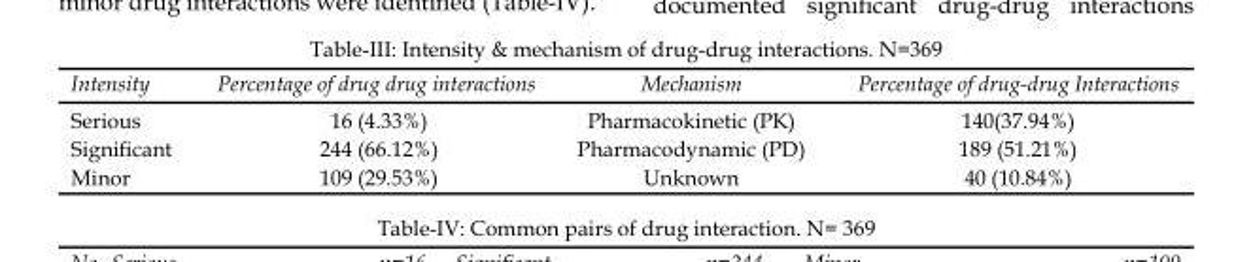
<table><thead><tr><td>Intensity</td><td>Percentage of drug drug interactions</td><td>Mechanism</td><td>Percentage of drug-drug Interactions</td></tr></thead><tbody><tr><td>Serious</td><td>16 (4.33%)</td><td>Pharmacokinetic (PK)</td><td>140(37.94%)</td></tr><tr><td>Significant</td><td>244 (66.12%)</td><td>Pharmacodynamic (PD)</td><td>189 (51.21%)</td></tr><tr><td>Minor</td><td>109 (29.53%)</td><td>Unknown</td><td>40 (10.84%)</td></tr></tbody></table>